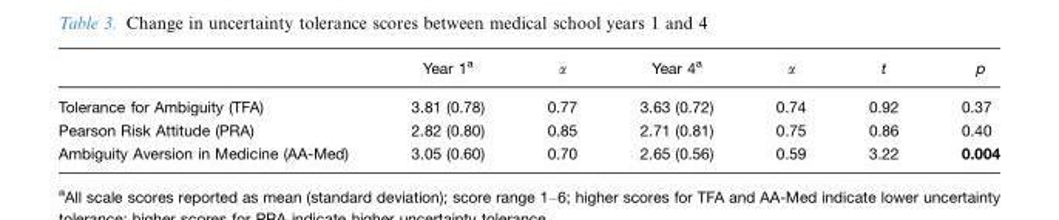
<table><thead><tr><td></td><td>Year 1<sup>a</sup></td><td>α</td><td>Year 4<sup>a</sup></td><td>α</td><td>t</td><td>p</td></tr></thead><tbody><tr><td>Tolerance for Ambiguity (TFA)</td><td>3.81 (0.78)</td><td>0.77</td><td>3.63 (0.72)</td><td>0.74</td><td>0.92</td><td>0.37</td></tr><tr><td>Pearson Risk Attitude (PRA)</td><td>2.82 (0.80)</td><td>0.85</td><td>2.71 (0.81)</td><td>0.75</td><td>0.86</td><td>0.40</td></tr><tr><td>Ambiguity Aversion in Medicine (AA-Med)</td><td>3.05 (0.60)</td><td>0.70</td><td>2.65 (0.56)</td><td>0.59</td><td>3.22</td><td>0.004</td></tr></tbody></table>